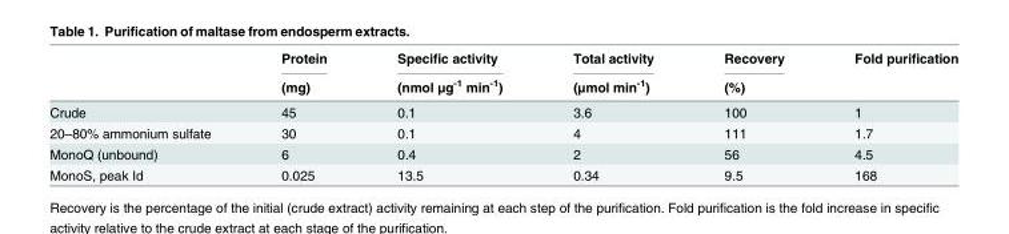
<table><thead><tr><td rowspan="2"></td><td rowspan="2">Protein (mg)</td><td rowspan="2">Specific activity (nmol μg<sup>-1</sup> min<sup>-1</sup>)</td><td rowspan="2">Total activity (μmol min<sup>-1</sup>)</td><td rowspan="2">Recovery (%)</td><td rowspan="2">Fold purification</td></tr><tr></tr></thead><tbody><tr><td>Crude</td><td>45</td><td>0.1</td><td>3.6</td><td>100</td><td>1</td></tr><tr><td>20–80% ammonium sulfate</td><td>30</td><td>0.1</td><td>4</td><td>111</td><td>1.7</td></tr><tr><td>MonoQ (unbound)</td><td>6</td><td>0.4</td><td>2</td><td>56</td><td>4.5</td></tr><tr><td>MonoS, peak Id</td><td>0.025</td><td>13.5</td><td>0.34</td><td>9.5</td><td>168</td></tr></tbody></table>